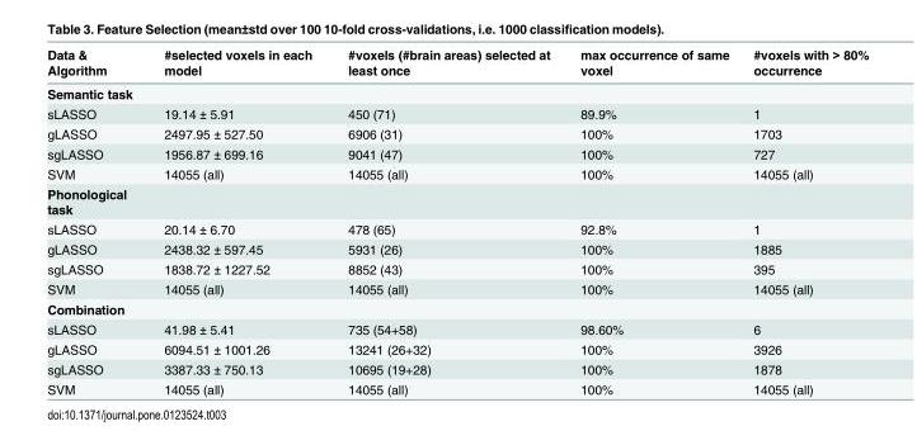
<table><thead><tr><td>Data &amp; Algorithm</td><td>#selected voxels in each model</td><td>#voxels (#brain areas) selected at least once</td><td>max occurrence of same voxel</td><td>#voxels with &gt; 80% occurrence</td></tr></thead><tbody><tr><td colspan="5">Semantic task</td></tr><tr><td>sLASSO</td><td>19.14 ± 5.91</td><td>450 (71)</td><td>89.9%</td><td>1</td></tr><tr><td>gLASSO</td><td>2497.95 ± 527.50</td><td>6906 (31)</td><td>100%</td><td>1703</td></tr><tr><td>sgLASSO</td><td>1956.87 ± 699.16</td><td>9041 (47)</td><td>100%</td><td>727</td></tr><tr><td>SVM</td><td>14055 (all)</td><td>14055 (all)</td><td>100%</td><td>14055 (all)</td></tr><tr><td colspan="5">Phonological task</td></tr><tr><td>sLASSO</td><td>20.14 ± 6.70</td><td>478 (65)</td><td>92.8%</td><td>1</td></tr><tr><td>gLASSO</td><td>2438.32 ± 597.45</td><td>5931 (26)</td><td>100%</td><td>1885</td></tr><tr><td>sgLASSO</td><td>1838.72 ± 1227.52</td><td>8852 (43)</td><td>100%</td><td>395</td></tr><tr><td>SVM</td><td>14055 (all)</td><td>14055 (all)</td><td>100%</td><td>14055 (all)</td></tr><tr><td colspan="5">Combination</td></tr><tr><td>sLASSO</td><td>41.98 ± 5.41</td><td>735 (54+58)</td><td>98.60%</td><td>6</td></tr><tr><td>gLASSO</td><td>6094.51 ± 1001.26</td><td>13241 (26+32)</td><td>100%</td><td>3926</td></tr><tr><td>sgLASSO</td><td>3387.33 ± 750.13</td><td>10695 (19+28)</td><td>100%</td><td>1878</td></tr><tr><td>SVM</td><td>14055 (all)</td><td>14055 (all)</td><td>100%</td><td>14055 (all)</td></tr></tbody></table>